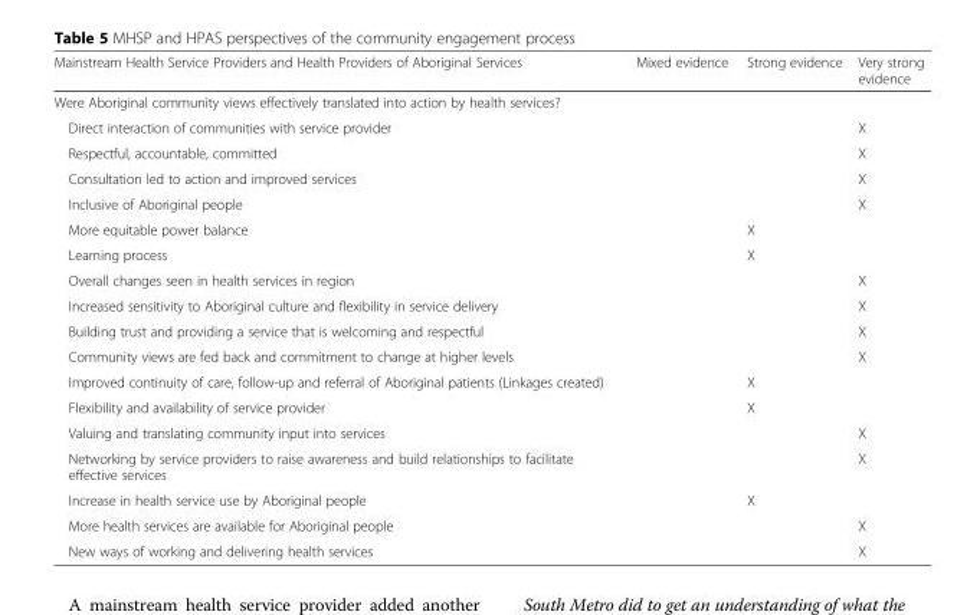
<table><thead><tr><td>Mainstream Health Service Providers and Health Providers of Aboriginal Services</td><td>Mixed evidence</td><td>Strong evidence</td><td>Very strong evidence</td></tr></thead><tbody><tr><td colspan="4">Were Aboriginal community views effectively translated into action by health services?</td></tr><tr><td>Direct interaction of communities with service provider</td><td></td><td></td><td>X</td></tr><tr><td>Respectful, accountable, committed</td><td></td><td></td><td>X</td></tr><tr><td>Consultation led to action and improved services</td><td></td><td></td><td>X</td></tr><tr><td>Inclusive of Aboriginal people</td><td></td><td></td><td>X</td></tr><tr><td>More equitable power balance</td><td></td><td>X</td><td></td></tr><tr><td>Learning process</td><td></td><td>X</td><td></td></tr><tr><td>Overall changes seen in health services in region</td><td></td><td></td><td>X</td></tr><tr><td>Increased sensitivity to Aboriginal culture and flexibility in service delivery</td><td></td><td></td><td>X</td></tr><tr><td>Building trust and providing a service that is welcoming and respectful</td><td></td><td></td><td>X</td></tr><tr><td>Community views are fed back and commitment to change at higher levels</td><td></td><td></td><td>X</td></tr><tr><td>Improved continuity of care, follow-up and referral of Aboriginal patients (Linkages created)</td><td></td><td>X</td><td></td></tr><tr><td>Flexibility and availability of service provider</td><td></td><td>X</td><td></td></tr><tr><td>Valuing and translating community input into services</td><td></td><td></td><td>X</td></tr><tr><td>Networking by service providers to raise awareness and build relationships to facilitate effective services</td><td></td><td></td><td>X</td></tr><tr><td>Increase in health service use by Aboriginal people</td><td></td><td>X</td><td></td></tr><tr><td>More health services are available for Aboriginal people</td><td></td><td></td><td>X</td></tr><tr><td>New ways of working and delivering health services</td><td></td><td></td><td>X</td></tr></tbody></table>